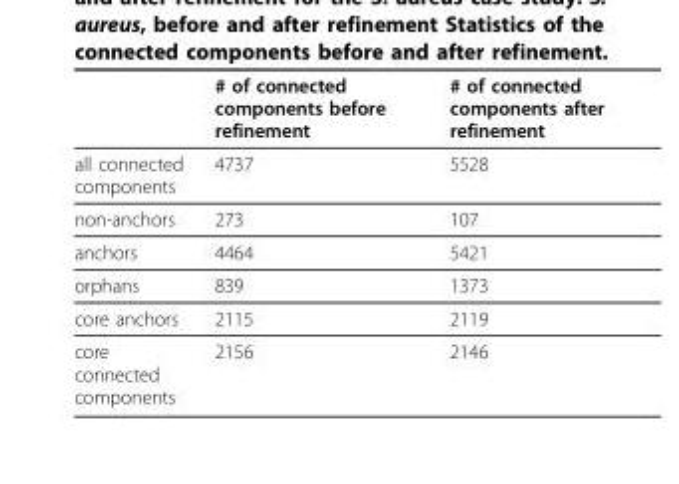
<table><thead><tr><td></td><td># of connected components before refinement</td><td># of connected components after refinement</td></tr></thead><tbody><tr><td>all connected components</td><td>4737</td><td>5528</td></tr><tr><td>non-anchors</td><td>273</td><td>107</td></tr><tr><td>anchors</td><td>4464</td><td>5421</td></tr><tr><td>orphans</td><td>839</td><td>1373</td></tr><tr><td>core anchors</td><td>2115</td><td>2119</td></tr><tr><td>core connected components</td><td>2156</td><td>2146</td></tr></tbody></table>